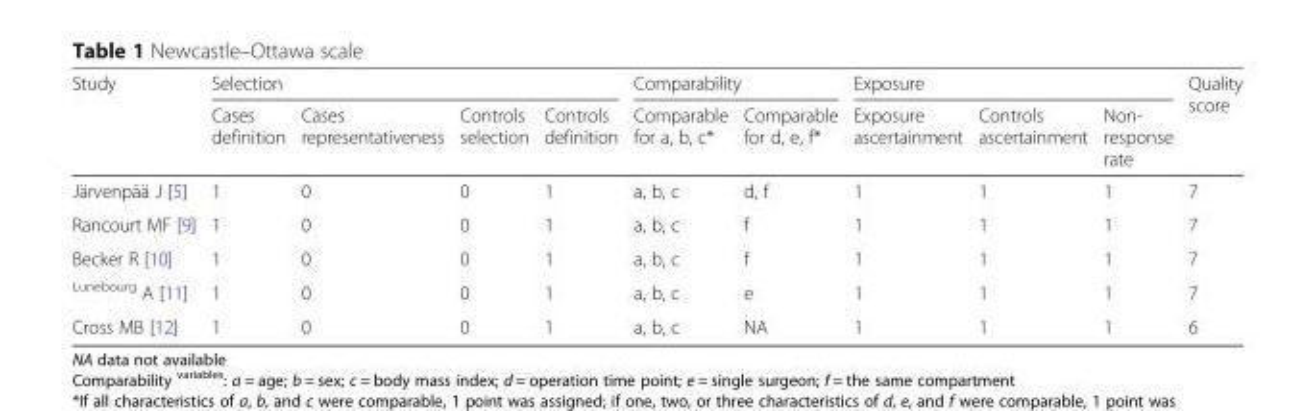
<table><thead><tr><td rowspan="2">Study</td><td colspan="4">Selection</td><td colspan="2">Comparability</td><td colspan="3">Exposure</td><td rowspan="2">Quality score</td></tr><tr><td>Cases definition</td><td>Cases representativeness</td><td>Controls selection</td><td>Controls definition</td><td>Comparable for a, b, c*</td><td>Comparable for d, e, f*</td><td>Exposure ascertainment</td><td>Controls ascertainment</td><td>Non- response rate</td></tr></thead><tbody><tr><td>Järvenpää J [5]</td><td>1</td><td>0</td><td>0</td><td>1</td><td>a, b, c</td><td>d, f</td><td>1</td><td>1</td><td>1</td><td>7</td></tr><tr><td>Rancourt MF [9]</td><td>1</td><td>0</td><td>0</td><td>1</td><td>a, b, c</td><td>f</td><td>1</td><td>1</td><td>1</td><td>7</td></tr><tr><td>Becker R [10]</td><td>1</td><td>0</td><td>0</td><td>1</td><td>a, b, c</td><td>f</td><td>1</td><td>1</td><td>1</td><td>7</td></tr><tr><td><sup>Lunebourg</sup> A [11]</td><td>1</td><td>0</td><td>0</td><td>1</td><td>a, b, c</td><td>e</td><td>1</td><td>1</td><td>1</td><td>7</td></tr><tr><td>Cross MB [12]</td><td>1</td><td>0</td><td>0</td><td>1</td><td>a, b, c</td><td>NA</td><td>1</td><td>1</td><td>1</td><td>6</td></tr></tbody></table>